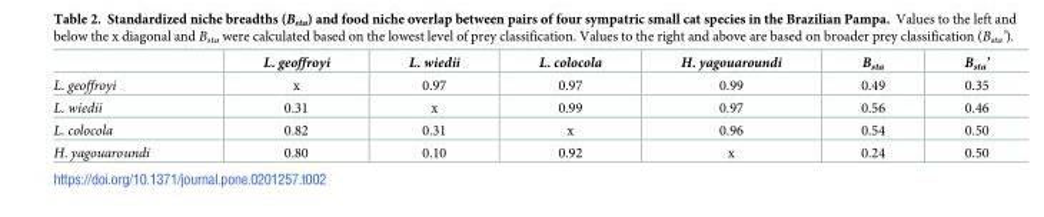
<table><thead><tr><td></td><td>L. geoffroyi</td><td>L. wiedii</td><td>L. colocola</td><td>H. yagouaroundi</td><td>B<sub>sta</sub></td><td>B<sub>sta</sub>’</td></tr></thead><tbody><tr><td>L. geoffroyi</td><td>x</td><td>0.97</td><td>0.97</td><td>0.99</td><td>0.49</td><td>0.35</td></tr><tr><td>L. wiedii</td><td>0.31</td><td>x</td><td>0.99</td><td>0.97</td><td>0.56</td><td>0.46</td></tr><tr><td>L. colocola</td><td>0.82</td><td>0.31</td><td>x</td><td>0.96</td><td>0.54</td><td>0.50</td></tr><tr><td>H. yagouaroundi</td><td>0.80</td><td>0.10</td><td>0.92</td><td>x</td><td>0.24</td><td>0.50</td></tr></tbody></table>